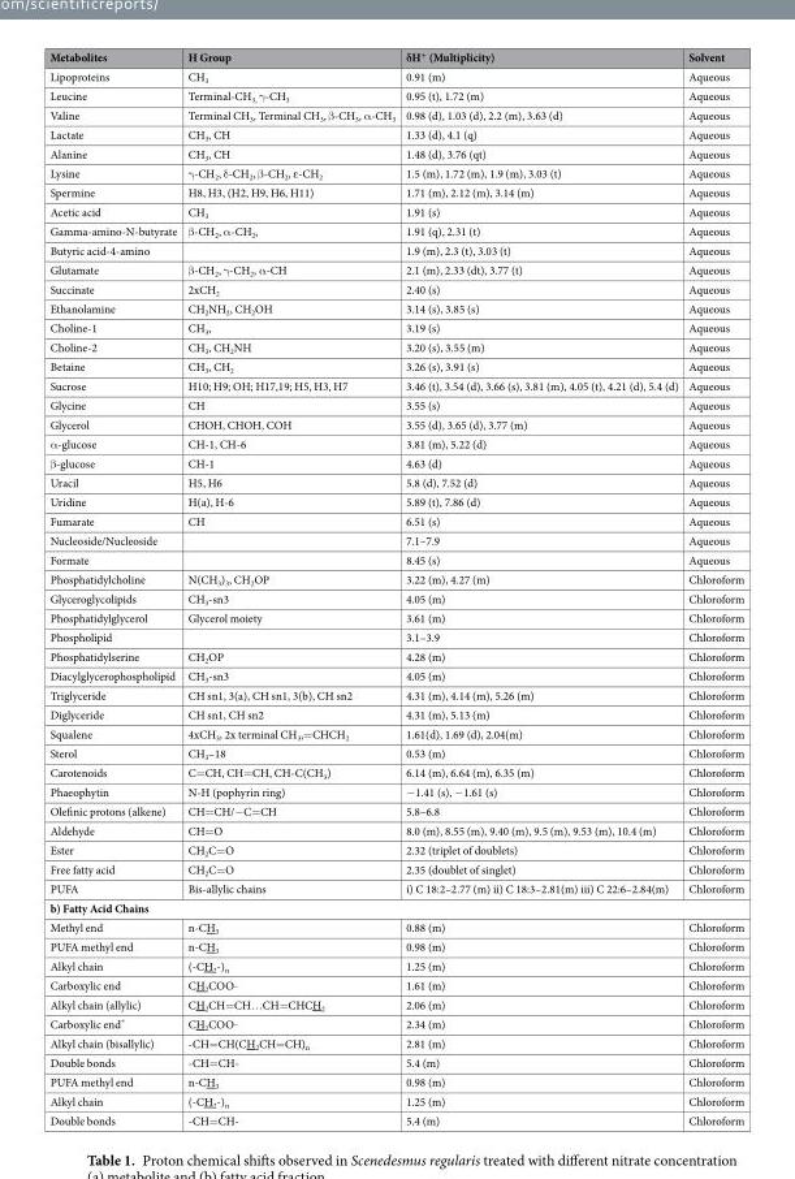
<table><thead><tr><td>Metabolites</td><td>H Group</td><td>δH<sup>+</sup> (Multiplicity)</td><td>Solvent</td></tr></thead><tbody><tr><td>Lipoproteins</td><td>CH<sub>3</sub></td><td>0.91 (m)</td><td>Aqueous</td></tr><tr><td>Leucine</td><td>Terminal-CH<sub>3,</sub> γ-CH<sub>3</sub></td><td>0.95 (t), 1.72 (m)</td><td>Aqueous</td></tr><tr><td>Valine</td><td>Terminal CH<sub>3</sub>, Terminal CH<sub>3</sub>, β-CH<sub>3</sub>, α-CH<sub>3</sub></td><td>0.98 (d), 1.03 (d), 2.2 (m), 3.63 (d)</td><td>Aqueous</td></tr><tr><td>Lactate</td><td>CH<sub>3</sub>, CH</td><td>1.33 (d), 4.1 (q)</td><td>Aqueous</td></tr><tr><td>Alanine</td><td>CH<sub>3</sub>, CH</td><td>1.48 (d), 3.76 (qt)</td><td>Aqueous</td></tr><tr><td>Lysine</td><td>γ-CH<sub>2</sub>, δ-CH<sub>2</sub>, β-CH<sub>2</sub>, ɛ-CH<sub>2</sub></td><td>1.5 (m), 1.72 (m), 1.9 (m), 3.03 (t)</td><td>Aqueous</td></tr><tr><td>Spermine</td><td>H8, H3, (H2, H9, H6, H11)</td><td>1.71 (m), 2.12 (m), 3.14 (m)</td><td>Aqueous</td></tr><tr><td>Acetic acid</td><td>CH<sub>3</sub></td><td>1.91 (s)</td><td>Aqueous</td></tr><tr><td>Gamma-amino-N-butyrate</td><td>β-CH<sub>2</sub>, α-CH<sub>2</sub>,</td><td>1.91 (q), 2.31 (t)</td><td>Aqueous</td></tr><tr><td>Butyric acid-4-amino</td><td></td><td>1.9 (m), 2.3 (t), 3.03 (t)</td><td>Aqueous</td></tr><tr><td>Glutamate</td><td>β-CH<sub>2</sub>, γ-CH<sub>2</sub>, α-CH</td><td>2.1 (m), 2.33 (dt), 3.77 (t)</td><td>Aqueous</td></tr><tr><td>Succinate</td><td>2xCH<sub>2</sub></td><td>2.40 (s)</td><td>Aqueous</td></tr><tr><td>Ethanolamine</td><td>CH<sub>2</sub>NH<sub>2</sub>, CH<sub>2</sub>OH</td><td>3.14 (s), 3.85 (s)</td><td>Aqueous</td></tr><tr><td>Choline-1</td><td>CH<sub>3</sub>,</td><td>3.19 (s)</td><td>Aqueous</td></tr><tr><td>Choline-2</td><td>CH<sub>3</sub>, CH<sub>2</sub>NH</td><td>3.20 (s), 3.55 (m)</td><td>Aqueous</td></tr><tr><td>Betaine</td><td>CH<sub>3</sub>, CH<sub>2</sub></td><td>3.26 (s), 3.91 (s)</td><td>Aqueous</td></tr><tr><td>Sucrose</td><td>H10; H9; OH; H17,19; H5, H3, H7</td><td>3.46 (t), 3.54 (d), 3.66 (s), 3.81 (m), 4.05 (t), 4.21 (d), 5.4 (d)</td><td>Aqueous</td></tr><tr><td>Glycine</td><td>CH</td><td>3.55 (s)</td><td>Aqueous</td></tr><tr><td>Glycerol</td><td>CHOH, CHOH, COH</td><td>3.55 (d), 3.65 (d), 3.77 (m)</td><td>Aqueous</td></tr><tr><td>α-glucose</td><td>CH-1, CH-6</td><td>3.81 (m), 5.22 (d)</td><td>Aqueous</td></tr><tr><td>β-glucose</td><td>CH-1</td><td>4.63 (d)</td><td>Aqueous</td></tr><tr><td>Uracil</td><td>H5, H6</td><td>5.8 (d), 7.52 (d)</td><td>Aqueous</td></tr><tr><td>Uridine</td><td>H(a), H-6</td><td>5.89 (t), 7.86 (d)</td><td>Aqueous</td></tr><tr><td>Fumarate</td><td>CH</td><td>6.51 (s)</td><td>Aqueous</td></tr><tr><td>Nucleoside/Nucleoside</td><td></td><td>7.1–7.9</td><td>Aqueous</td></tr><tr><td>Formate</td><td></td><td>8.45 (s)</td><td>Aqueous</td></tr><tr><td>Phosphatidylcholine</td><td>N(CH<sub>3</sub>)<sub>3</sub>, CH<sub>2</sub>OP</td><td>3.22 (m), 4.27 (m)</td><td>Chloroform</td></tr><tr><td>Glyceroglycolipids</td><td>CH<sub>3</sub>-sn3</td><td>4.05 (m)</td><td>Chloroform</td></tr><tr><td>Phosphatidylglycerol</td><td>Glycerol moiety</td><td>3.61 (m)</td><td>Chloroform</td></tr><tr><td>Phospholipid</td><td></td><td>3.1–3.9</td><td>Chloroform</td></tr><tr><td>Phosphatidylserine</td><td>CH<sub>2</sub>OP</td><td>4.28 (m)</td><td>Chloroform</td></tr><tr><td>Diacylglycerophospholipid</td><td>CH<sub>3</sub>-sn3</td><td>4.05 (m)</td><td>Chloroform</td></tr><tr><td>Triglyceride</td><td>CH sn1, 3(a), CH sn1, 3(b), CH sn2</td><td>4.31 (m), 4.14 (m), 5.26 (m)</td><td>Chloroform</td></tr><tr><td>Diglyceride</td><td>CH sn1, CH sn2</td><td>4.31 (m), 5.13 (m)</td><td>Chloroform</td></tr><tr><td>Squalene</td><td>4xCH<sub>3</sub>, 2x terminal CH<sub>3</sub>,=CHCH<sub>2</sub></td><td>1.61(d), 1.69 (d), 2.04(m)</td><td>Chloroform</td></tr><tr><td>Sterol</td><td>CH<sub>3</sub>–18</td><td>0.53 (m)</td><td>Chloroform</td></tr><tr><td>Carotenoids</td><td>C=CH, CH=CH, CH-C(CH<sub>3</sub>)</td><td>6.14 (m), 6.64 (m), 6.35 (m)</td><td>Chloroform</td></tr><tr><td>Phaeophytin</td><td>N-H (pophyrin ring)</td><td>−1.41 (s), −1.61 (s)</td><td>Chloroform</td></tr><tr><td>Olefinic protons (alkene)</td><td>CH=CH/−C=CH</td><td>5.8–6.8</td><td>Chloroform</td></tr><tr><td>Aldehyde</td><td>CH=O</td><td>8.0 (m), 8.55 (m), 9.40 (m), 9.5 (m), 9.53 (m), 10.4 (m)</td><td>Chloroform</td></tr><tr><td>Ester</td><td>CH<sub>2</sub>C=O</td><td>2.32 (triplet of doublets)</td><td>Chloroform</td></tr><tr><td>Free fatty acid</td><td>CH<sub>2</sub>C=O</td><td>2.35 (doublet of singlet)</td><td>Chloroform</td></tr><tr><td>PUFA</td><td>Bis-allylic chains</td><td>i) C 18:2–2.77 (m) ii) C 18:3–2.81(m) iii) C 22:6–2.84(m)</td><td>Chloroform</td></tr><tr><td colspan="4">b) Fatty Acid Chains</td></tr><tr><td>Methyl end</td><td>n-CH<sub>3</sub></td><td>0.88 (m)</td><td>Chloroform</td></tr><tr><td>PUFA methyl end</td><td>n-CH<sub>3</sub></td><td>0.98 (m)</td><td>Chloroform</td></tr><tr><td>Alkyl chain</td><td>(-CH<sub>2</sub>-)<sub>n</sub></td><td>1.25 (m)</td><td>Chloroform</td></tr><tr><td>Carboxylic end</td><td>CH<sub>2</sub>COO<sup>_</sup></td><td>1.61 (m)</td><td>Chloroform</td></tr><tr><td>Alkyl chain (allylic)</td><td>CH<sub>2</sub>CH=CH…CH=CHCH<sub>2</sub></td><td>2.06 (m)</td><td>Chloroform</td></tr><tr><td>Carboxylic end*</td><td>CH<sub>2</sub>COO<sup>_</sup></td><td>2.34 (m)</td><td>Chloroform</td></tr><tr><td>Alkyl chain (bisallylic)</td><td>-CH=CH(CH<sub>2</sub>CH=CH)<sub>n</sub></td><td>2.81 (m)</td><td>Chloroform</td></tr><tr><td>Double bonds</td><td>-CH=CH-</td><td>5.4 (m)</td><td>Chloroform</td></tr><tr><td>PUFA methyl end</td><td>n-CH<sub>3</sub></td><td>0.98 (m)</td><td>Chloroform</td></tr><tr><td>Alkyl chain</td><td>(-CH<sub>2</sub>-)<sub>n</sub></td><td>1.25 (m)</td><td>Chloroform</td></tr><tr><td>Double bonds</td><td>-CH=CH-</td><td>5.4 (m)</td><td>Chloroform</td></tr></tbody></table>